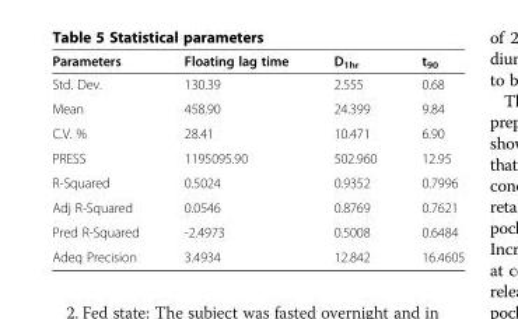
<table><thead><tr><td>Parameters</td><td>Floating lag time</td><td>D<sub>1hr</sub></td><td>t<sub>90</sub></td></tr></thead><tbody><tr><td>Std. Dev.</td><td>130.39</td><td>2.555</td><td>0.68</td></tr><tr><td>Mean</td><td>458.90</td><td>24.399</td><td>9.84</td></tr><tr><td>C.V. %</td><td>28.41</td><td>10.471</td><td>6.90</td></tr><tr><td>PRESS</td><td>1195095.90</td><td>502.960</td><td>12.95</td></tr><tr><td>R-Squared</td><td>0.5024</td><td>0.9352</td><td>0.7996</td></tr><tr><td>Adj R-Squared</td><td>0.0546</td><td>0.8769</td><td>0.7621</td></tr><tr><td>Pred R-Squared</td><td>-2.4973</td><td>0.5008</td><td>0.6484</td></tr><tr><td>Adeq Precision</td><td>3.4934</td><td>12.842</td><td>16.4605</td></tr></tbody></table>